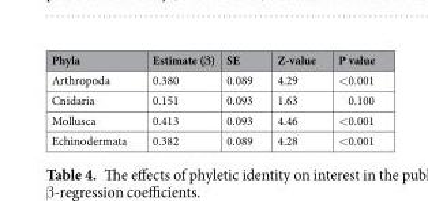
<table><thead><tr><td>Phyla</td><td>Estimate (β)</td><td>SE</td><td>Z-value</td><td>P value</td></tr></thead><tbody><tr><td>Arthropoda</td><td>0.380</td><td>0.089</td><td>4.29</td><td>&lt;0.001</td></tr><tr><td>Cnidaria</td><td>0.151</td><td>0.093</td><td>1.63</td><td>0.100</td></tr><tr><td>Mollusca</td><td>0.413</td><td>0.093</td><td>4.46</td><td>&lt;0.001</td></tr><tr><td>Echinodermata</td><td>0.382</td><td>0.089</td><td>4.28</td><td>&lt;0.001</td></tr></tbody></table>